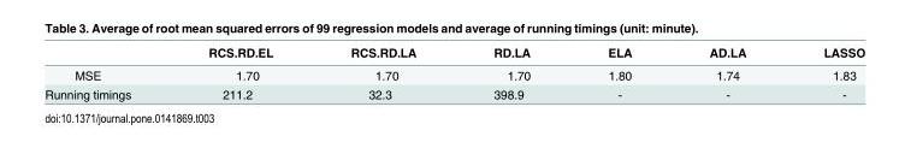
<table><thead><tr><td></td><td>RCS.RD.EL</td><td>RCS.RD.LA</td><td>RD.LA</td><td>ELA</td><td>AD.LA</td><td>LASSO</td></tr></thead><tbody><tr><td>MSE</td><td>1.70</td><td>1.70</td><td>1.70</td><td>1.80</td><td>1.74</td><td>1.83</td></tr><tr><td>Running timings</td><td>211.2</td><td>32.3</td><td>398.9</td><td>-</td><td>-</td><td>-</td></tr></tbody></table>